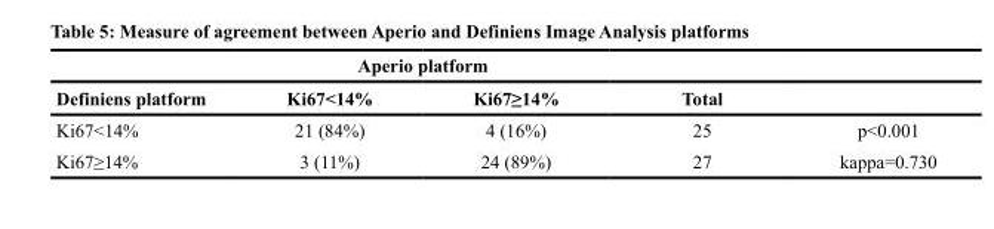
<table><thead><tr><td colspan="5">Aperio platform</td></tr><tr><td>Definiens platform</td><td>Ki67&lt;14%</td><td>Ki67≥14%</td><td>Total</td><td></td></tr></thead><tbody><tr><td>Ki67&lt;14%</td><td>21 (84%)</td><td>4 (16%)</td><td>25</td><td>p&lt;0.001</td></tr><tr><td>Ki67≥14%</td><td>3 (11%)</td><td>24 (89%)</td><td>27</td><td>kappa=0.730</td></tr></tbody></table>